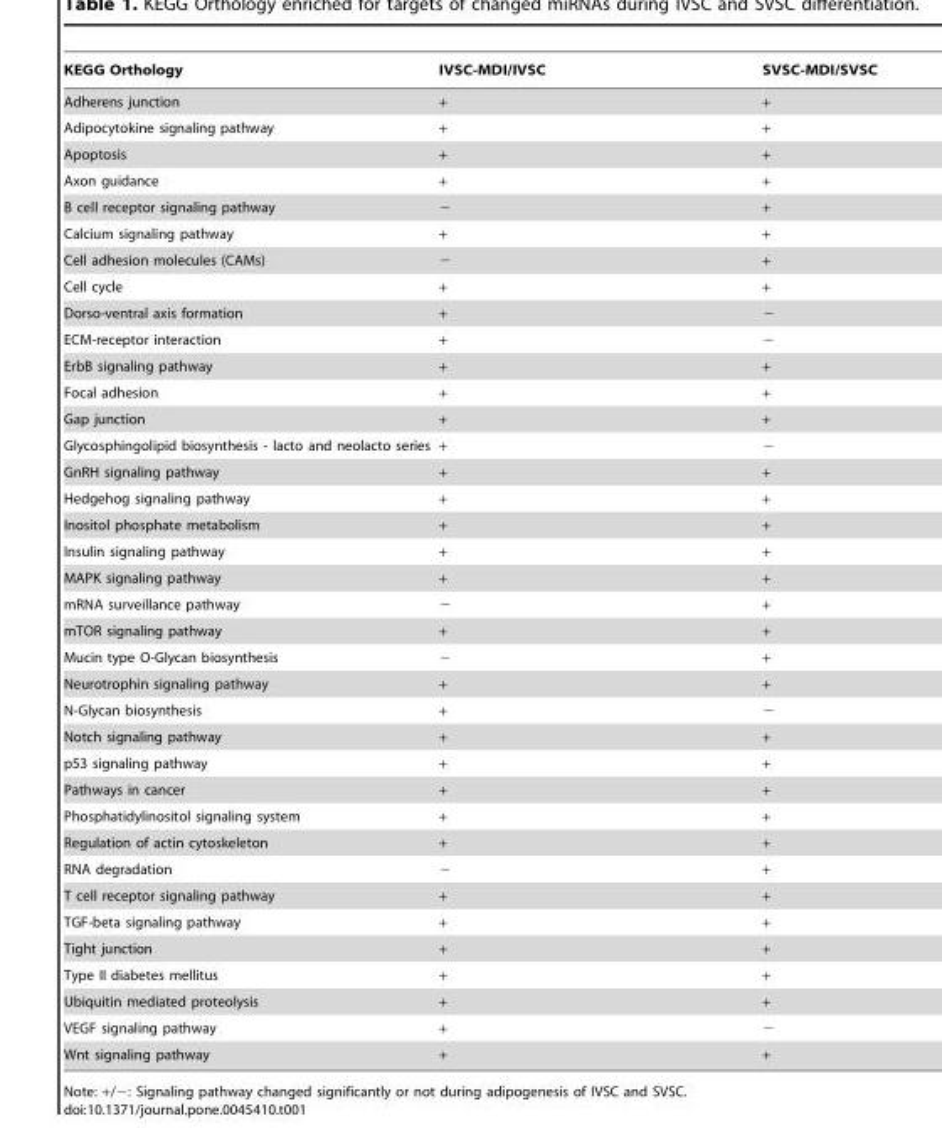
<table><thead><tr><td>KEGG Orthology</td><td>IVSC-MDI/IVSC</td><td>SVSC-MDI/SVSC</td></tr></thead><tbody><tr><td>Adherens junction</td><td>+</td><td>+</td></tr><tr><td>Adipocytokine signaling pathway</td><td>+</td><td>+</td></tr><tr><td>Apoptosis</td><td>+</td><td>+</td></tr><tr><td>Axon guidance</td><td>+</td><td>+</td></tr><tr><td>B cell receptor signaling pathway</td><td>−</td><td>+</td></tr><tr><td>Calcium signaling pathway</td><td>+</td><td>+</td></tr><tr><td>Cell adhesion molecules (CAMs)</td><td>−</td><td>+</td></tr><tr><td>Cell cycle</td><td>+</td><td>+</td></tr><tr><td>Dorso-ventral axis formation</td><td>+</td><td>−</td></tr><tr><td>ECM-receptor interaction</td><td>+</td><td>−</td></tr><tr><td>ErbB signaling pathway</td><td>+</td><td>+</td></tr><tr><td>Focal adhesion</td><td>+</td><td>+</td></tr><tr><td>Gap junction</td><td>+</td><td>+</td></tr><tr><td>Glycosphingolipid biosynthesis - lacto and neolacto series</td><td>+</td><td>−</td></tr><tr><td>GnRH signaling pathway</td><td>+</td><td>+</td></tr><tr><td>Hedgehog signaling pathway</td><td>+</td><td>+</td></tr><tr><td>Inositol phosphate metabolism</td><td>+</td><td>+</td></tr><tr><td>Insulin signaling pathway</td><td>+</td><td>+</td></tr><tr><td>MAPK signaling pathway</td><td>+</td><td>+</td></tr><tr><td>mRNA surveillance pathway</td><td>−</td><td>+</td></tr><tr><td>mTOR signaling pathway</td><td>+</td><td>+</td></tr><tr><td>Mucin type O-Glycan biosynthesis</td><td>−</td><td>+</td></tr><tr><td>Neurotrophin signaling pathway</td><td>+</td><td>+</td></tr><tr><td>N-Glycan biosynthesis</td><td>+</td><td>−</td></tr><tr><td>Notch signaling pathway</td><td>+</td><td>+</td></tr><tr><td>p53 signaling pathway</td><td>+</td><td>+</td></tr><tr><td>Pathways in cancer</td><td>+</td><td>+</td></tr><tr><td>Phosphatidylinositol signaling system</td><td>+</td><td>+</td></tr><tr><td>Regulation of actin cytoskeleton</td><td>+</td><td>+</td></tr><tr><td>RNA degradation</td><td>−</td><td>+</td></tr><tr><td>T cell receptor signaling pathway</td><td>+</td><td>+</td></tr><tr><td>TGF-beta signaling pathway</td><td>+</td><td>+</td></tr><tr><td>Tight junction</td><td>+</td><td>+</td></tr><tr><td>Type II diabetes mellitus</td><td>+</td><td>+</td></tr><tr><td>Ubiquitin mediated proteolysis</td><td>+</td><td>+</td></tr><tr><td>VEGF signaling pathway</td><td>+</td><td>−</td></tr><tr><td>Wnt signaling pathway</td><td>+</td><td>+</td></tr></tbody></table>